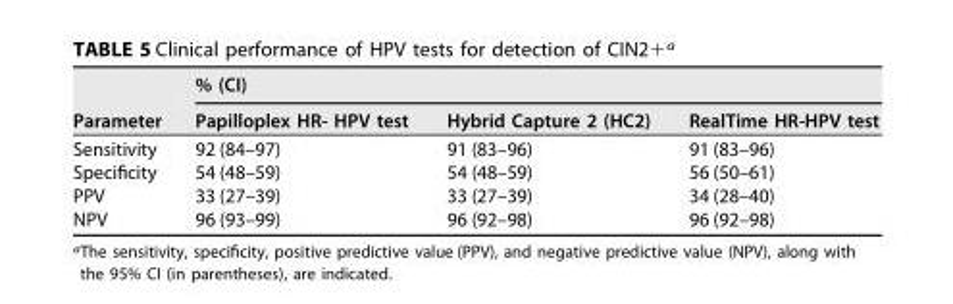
<table><thead><tr><td rowspan="2">Parameter</td><td colspan="3">% (CI)</td></tr><tr><td>Papilloplex HR- HPV test</td><td>Hybrid Capture 2 (HC2)</td><td>RealTime HR-HPV test</td></tr></thead><tbody><tr><td>Sensitivity</td><td>92 (84–97)</td><td>91 (83–96)</td><td>91 (83–96)</td></tr><tr><td>Specificity</td><td>54 (48–59)</td><td>54 (48–59)</td><td>56 (50–61)</td></tr><tr><td>PPV</td><td>33 (27–39)</td><td>33 (27–39)</td><td>34 (28–40)</td></tr><tr><td>NPV</td><td>96 (93–99)</td><td>96 (92–98)</td><td>96 (92–98)</td></tr></tbody></table>